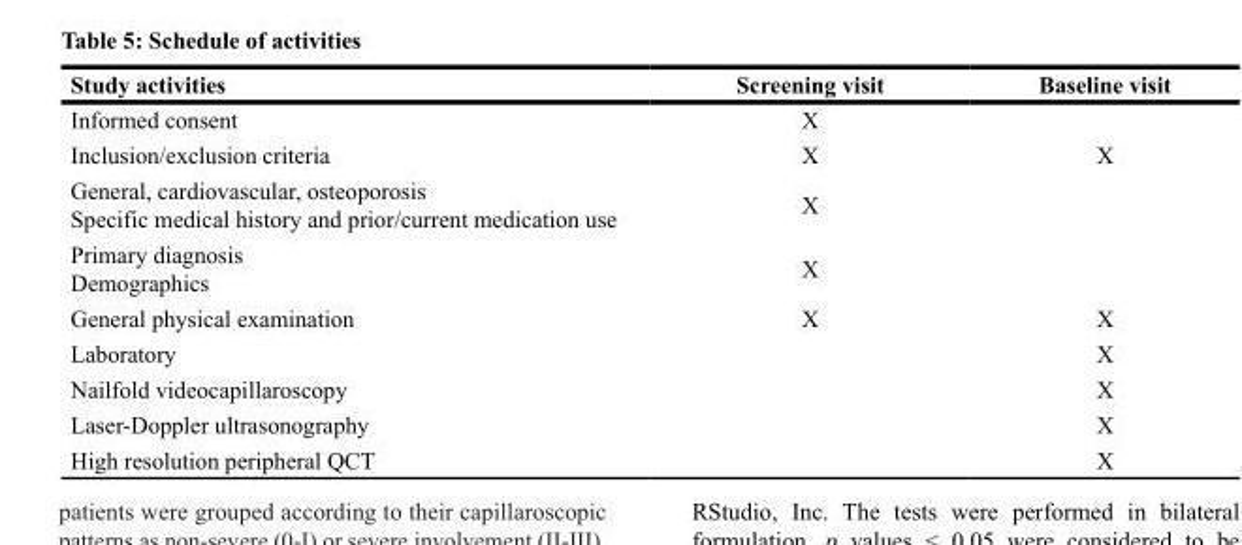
<table><thead><tr><td>Study activities</td><td>Screening visit</td><td>Baseline visit</td></tr></thead><tbody><tr><td>Informed consent</td><td>Χ</td><td></td></tr><tr><td>Inclusion/exclusion criteria</td><td>Χ</td><td>Χ</td></tr><tr><td>General, cardiovascular, osteoporosis Specific medical history and prior/current medication use</td><td>Χ</td><td></td></tr><tr><td>Primary diagnosis Demographics</td><td>Χ</td><td></td></tr><tr><td>General physical examination</td><td>Χ</td><td>Χ</td></tr><tr><td>Laboratory</td><td></td><td>Χ</td></tr><tr><td>Nailfold videocapillaroscopy</td><td></td><td>Χ</td></tr><tr><td>Laser-Doppler ultrasonography</td><td></td><td>Χ</td></tr><tr><td>High resolution peripheral QCT</td><td></td><td>Χ</td></tr></tbody></table>